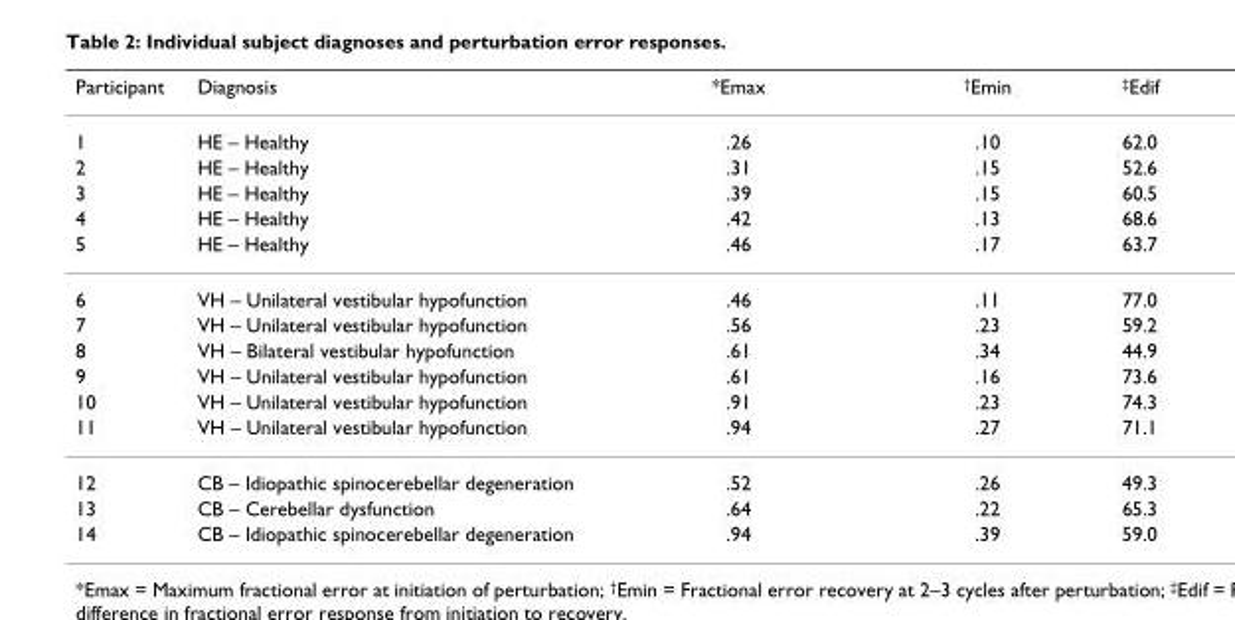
<table><thead><tr><td>Participant</td><td>Diagnosis</td><td>*Emax</td><td><sup>†</sup>Emin</td><td><sup>‡</sup>Edif</td></tr></thead><tbody><tr><td>1</td><td>HE – Healthy</td><td>.26</td><td>.10</td><td>62.0</td></tr><tr><td>2</td><td>HE – Healthy</td><td>.31</td><td>.15</td><td>52.6</td></tr><tr><td>3</td><td>HE – Healthy</td><td>.39</td><td>.15</td><td>60.5</td></tr><tr><td>4</td><td>HE – Healthy</td><td>.42</td><td>.13</td><td>68.6</td></tr><tr><td>5</td><td>HE – Healthy</td><td>.46</td><td>.17</td><td>63.7</td></tr><tr><td>6</td><td>VH – Unilateral vestibular hypofunction</td><td>.46</td><td>.11</td><td>77.0</td></tr><tr><td>7</td><td>VH – Unilateral vestibular hypofunction</td><td>.56</td><td>.23</td><td>59.2</td></tr><tr><td>8</td><td>VH – Bilateral vestibular hypofunction</td><td>.61</td><td>.34</td><td>44.9</td></tr><tr><td>9</td><td>VH – Unilateral vestibular hypofunction</td><td>.61</td><td>.16</td><td>73.6</td></tr><tr><td>10</td><td>VH – Unilateral vestibular hypofunction</td><td>.91</td><td>.23</td><td>74.3</td></tr><tr><td>11</td><td>VH – Unilateral vestibular hypofunction</td><td>.94</td><td>.27</td><td>71.1</td></tr><tr><td>12</td><td>CB – Idiopathic spinocerebellar degeneration</td><td>.52</td><td>.26</td><td>49.3</td></tr><tr><td>13</td><td>CB – Cerebellar dysfunction</td><td>.64</td><td>.22</td><td>65.3</td></tr><tr><td>14</td><td>CB – Idiopathic spinocerebellar degeneration</td><td>.94</td><td>.39</td><td>59.0</td></tr></tbody></table>